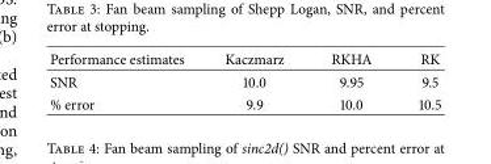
<table><thead><tr><td>Performance estimates</td><td>Kaczmarz</td><td>RKHA</td><td>RK</td></tr></thead><tbody><tr><td>SNR</td><td>10.0</td><td>9.95</td><td>9.5</td></tr><tr><td>% error</td><td>9.9</td><td>10.0</td><td>10.5</td></tr></tbody></table>